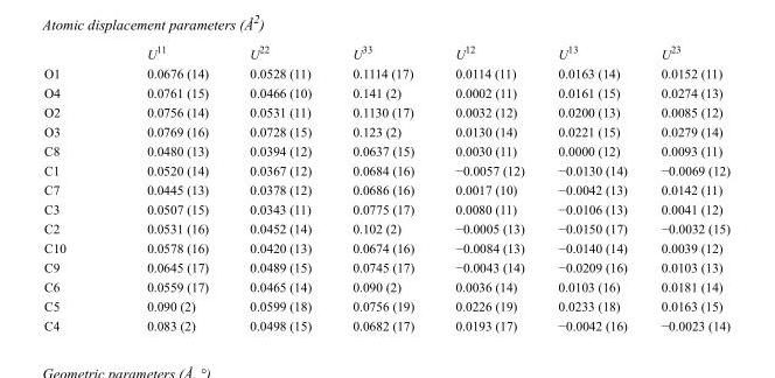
<table><thead><tr><td></td><td>U<sup>11</sup></td><td>U<sup>22</sup></td><td>U<sup>33</sup></td><td>U<sup>12</sup></td><td>U<sup>13</sup></td><td>U<sup>23</sup></td></tr></thead><tbody><tr><td>O1</td><td>0.0676 (14)</td><td>0.0528 (11)</td><td>0.1114 (17)</td><td>0.0114 (11)</td><td>0.0163 (14)</td><td>0.0152 (11)</td></tr><tr><td>O4</td><td>0.0761 (15)</td><td>0.0466 (10)</td><td>0.141 (2)</td><td>0.0002 (11)</td><td>0.0161 (15)</td><td>0.0274 (13)</td></tr><tr><td>O2</td><td>0.0756 (14)</td><td>0.0531 (11)</td><td>0.1130 (17)</td><td>0.0032 (12)</td><td>0.0200 (13)</td><td>0.0085 (12)</td></tr><tr><td>O3</td><td>0.0769 (16)</td><td>0.0728 (15)</td><td>0.123 (2)</td><td>0.0130 (14)</td><td>0.0221 (15)</td><td>0.0279 (14)</td></tr><tr><td>C8</td><td>0.0480 (13)</td><td>0.0394 (12)</td><td>0.0637 (15)</td><td>0.0030 (11)</td><td>0.0000 (12)</td><td>0.0093 (11)</td></tr><tr><td>C1</td><td>0.0520 (14)</td><td>0.0367 (12)</td><td>0.0684 (16)</td><td>−0.0057 (12)</td><td>−0.0130 (14)</td><td>−0.0069 (12)</td></tr><tr><td>C7</td><td>0.0445 (13)</td><td>0.0378 (12)</td><td>0.0686 (16)</td><td>0.0017 (10)</td><td>−0.0042 (13)</td><td>0.0142 (11)</td></tr><tr><td>C3</td><td>0.0507 (15)</td><td>0.0343 (11)</td><td>0.0775 (17)</td><td>0.0080 (11)</td><td>−0.0106 (13)</td><td>0.0041 (12)</td></tr><tr><td>C2</td><td>0.0531 (16)</td><td>0.0452 (14)</td><td>0.102 (2)</td><td>−0.0005 (13)</td><td>−0.0150 (17)</td><td>−0.0032 (15)</td></tr><tr><td>C10</td><td>0.0578 (16)</td><td>0.0420 (13)</td><td>0.0674 (16)</td><td>−0.0084 (13)</td><td>−0.0140 (14)</td><td>0.0039 (12)</td></tr><tr><td>C9</td><td>0.0645 (17)</td><td>0.0489 (15)</td><td>0.0745 (17)</td><td>−0.0043 (14)</td><td>−0.0209 (16)</td><td>0.0103 (13)</td></tr><tr><td>C6</td><td>0.0559 (17)</td><td>0.0465 (14)</td><td>0.090 (2)</td><td>0.0036 (14)</td><td>0.0103 (16)</td><td>0.0181 (14)</td></tr><tr><td>C5</td><td>0.090 (2)</td><td>0.0599 (18)</td><td>0.0756 (19)</td><td>0.0226 (19)</td><td>0.0233 (18)</td><td>0.0163 (15)</td></tr><tr><td>C4</td><td>0.083 (2)</td><td>0.0498 (15)</td><td>0.0682 (17)</td><td>0.0193 (17)</td><td>−0.0042 (16)</td><td>−0.0023 (14)</td></tr></tbody></table>